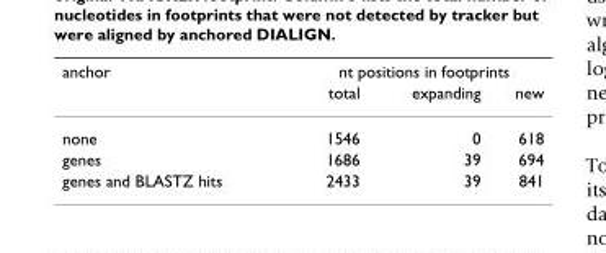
<table><thead><tr><td rowspan="2">anchor</td><td colspan="3">nt positions in footprints</td></tr><tr><td>total</td><td>expanding</td><td>new</td></tr></thead><tbody><tr><td>none</td><td>1546</td><td>0</td><td>618</td></tr><tr><td>genes</td><td>1686</td><td>39</td><td>694</td></tr><tr><td>genes and BLASTZ hits</td><td>2433</td><td>39</td><td>841</td></tr></tbody></table>